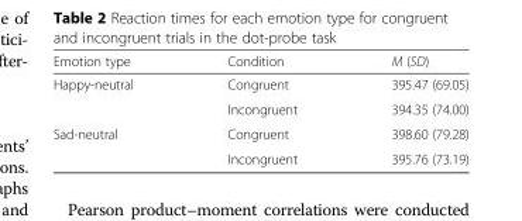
<table><thead><tr><td>Emotion type</td><td>Condition</td><td>M (SD)</td></tr></thead><tbody><tr><td rowspan="2">Happy-neutral</td><td>Congruent</td><td>395.47 (69.05)</td></tr><tr><td>Incongruent</td><td>394.35 (74.00)</td></tr><tr><td rowspan="2">Sad-neutral</td><td>Congruent</td><td>398.60 (79.28)</td></tr><tr><td>Incongruent</td><td>395.76 (73.19)</td></tr></tbody></table>